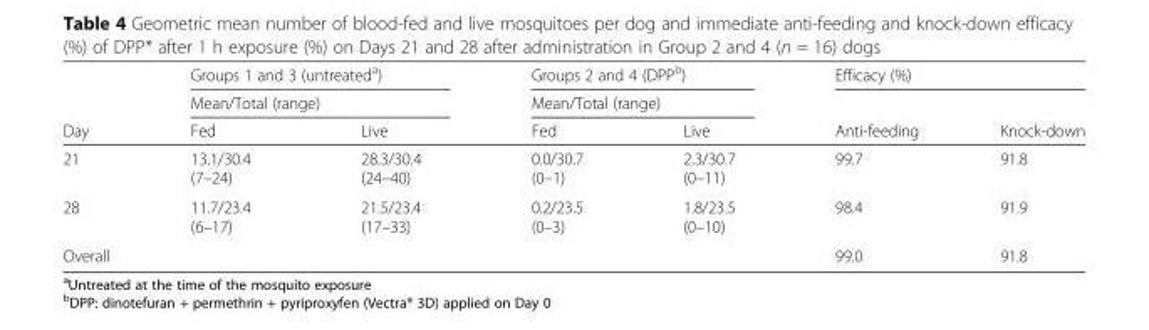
<table><thead><tr><td rowspan="3">Day</td><td rowspan="2" colspan="2">Groups 1 and 3 (untreated<sup>a</sup>) Mean/Total (range)</td><td rowspan="2" colspan="2">Groups 2 and 4 (DPP<sup>b</sup>) Mean/Total (range)</td><td colspan="2">Efficacy (%)</td></tr><tr><td rowspan="2">Anti-feeding</td><td rowspan="2">Knock-down</td></tr><tr><td>Fed</td><td>Live</td><td>Fed</td><td>Live</td></tr></thead><tbody><tr><td>21</td><td>13.1/30.4 (7–24)</td><td>28.3/30.4 (24–40)</td><td>0.0/30.7 (0–1)</td><td>2.3/30.7 (0–11)</td><td>99.7</td><td>91.8</td></tr><tr><td>28</td><td>11.7/23.4 (6–17)</td><td>21.5/23.4 (17–33)</td><td>0.2/23.5 (0–3)</td><td>1.8/23.5 (0–10)</td><td>98.4</td><td>91.9</td></tr><tr><td>Overall</td><td></td><td></td><td></td><td></td><td>99.0</td><td>91.8</td></tr></tbody></table>